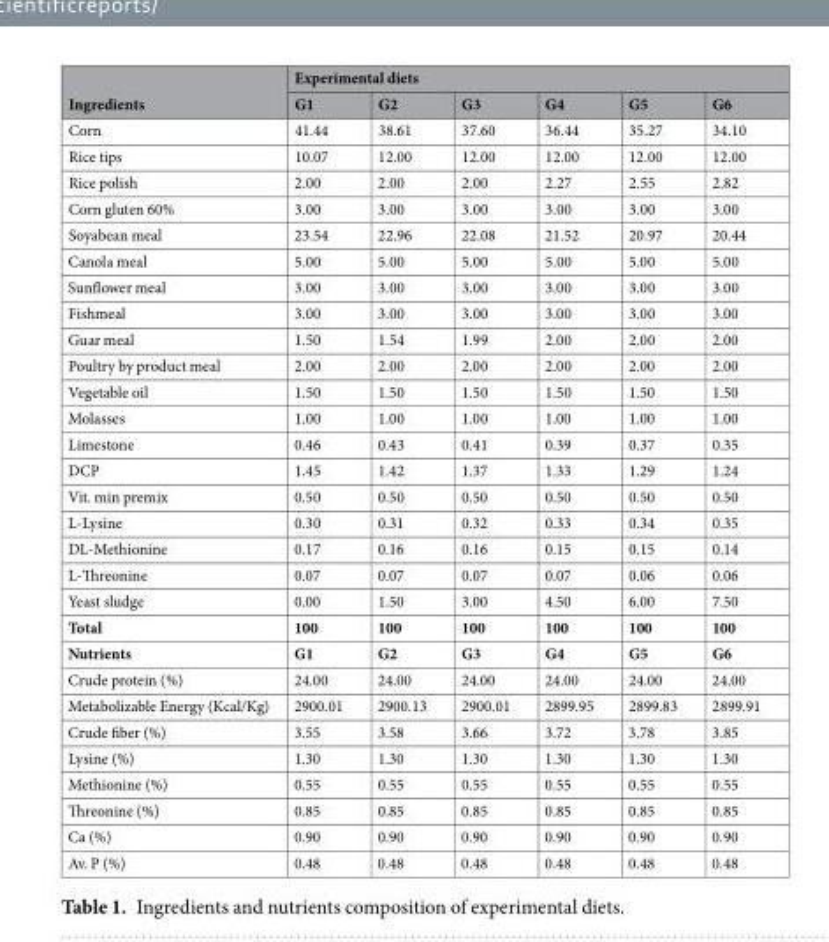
<table><thead><tr><td rowspan="2">Ingredients</td><td colspan="6">Experimental diets</td></tr><tr><td>G1</td><td>G2</td><td>G3</td><td>G4</td><td>G5</td><td>G6</td></tr></thead><tbody><tr><td>Corn</td><td>41.44</td><td>38.61</td><td>37.60</td><td>36.44</td><td>35.27</td><td>34.10</td></tr><tr><td>Rice tips</td><td>10.07</td><td>12.00</td><td>12.00</td><td>12.00</td><td>12.00</td><td>12.00</td></tr><tr><td>Rice polish</td><td>2.00</td><td>2.00</td><td>2.00</td><td>2.27</td><td>2.55</td><td>2.82</td></tr><tr><td>Corn gluten 60%</td><td>3.00</td><td>3.00</td><td>3.00</td><td>3.00</td><td>3.00</td><td>3.00</td></tr><tr><td>Soyabean meal</td><td>23.54</td><td>22.96</td><td>22.08</td><td>21.52</td><td>20.97</td><td>20.44</td></tr><tr><td>Canola meal</td><td>5.00</td><td>5.00</td><td>5.00</td><td>5.00</td><td>5.00</td><td>5.00</td></tr><tr><td>Sunflower meal</td><td>3.00</td><td>3.00</td><td>3.00</td><td>3.00</td><td>3.00</td><td>3.00</td></tr><tr><td>Fishmeal</td><td>3.00</td><td>3.00</td><td>3.00</td><td>3.00</td><td>3.00</td><td>3.00</td></tr><tr><td>Guar meal</td><td>1.50</td><td>1.54</td><td>1.99</td><td>2.00</td><td>2.00</td><td>2.00</td></tr><tr><td>Poultry by product meal</td><td>2.00</td><td>2.00</td><td>2.00</td><td>2.00</td><td>2.00</td><td>2.00</td></tr><tr><td>Vegetable oil</td><td>1.50</td><td>1.50</td><td>1.50</td><td>1.50</td><td>1.50</td><td>1.50</td></tr><tr><td>Molasses</td><td>1.00</td><td>1.00</td><td>1.00</td><td>1.00</td><td>1.00</td><td>1.00</td></tr><tr><td>Limestone</td><td>0.46</td><td>0.43</td><td>0.41</td><td>0.39</td><td>0.37</td><td>0.35</td></tr><tr><td>DCP</td><td>1.45</td><td>1.42</td><td>1.37</td><td>1.33</td><td>1.29</td><td>1.24</td></tr><tr><td>Vit. min premix</td><td>0.50</td><td>0.50</td><td>0.50</td><td>0.50</td><td>0.50</td><td>0.50</td></tr><tr><td>L-Lysine</td><td>0.30</td><td>0.31</td><td>0.32</td><td>0.33</td><td>0.34</td><td>0.35</td></tr><tr><td>DL-Methionine</td><td>0.17</td><td>0.16</td><td>0.16</td><td>0.15</td><td>0.15</td><td>0.14</td></tr><tr><td>L-Threonine</td><td>0.07</td><td>0.07</td><td>0.07</td><td>0.07</td><td>0.06</td><td>0.06</td></tr><tr><td>Yeast sludge</td><td>0.00</td><td>1.50</td><td>3.00</td><td>4.50</td><td>6.00</td><td>7.50</td></tr><tr><td>Total</td><td>100</td><td>100</td><td>100</td><td>100</td><td>100</td><td>100</td></tr><tr><td>Nutrients</td><td>G1</td><td>G2</td><td>G3</td><td>G4</td><td>G5</td><td>G6</td></tr><tr><td>Crude protein (%)</td><td>24.00</td><td>24.00</td><td>24.00</td><td>24.00</td><td>24.00</td><td>24.00</td></tr><tr><td>Metabolizable Energy (Kcal/Kg)</td><td>2900.01</td><td>2900.13</td><td>2900.01</td><td>2899.95</td><td>2899.83</td><td>2899.91</td></tr><tr><td>Crude fiber (%)</td><td>3.55</td><td>3.58</td><td>3.66</td><td>3.72</td><td>3.78</td><td>3.85</td></tr><tr><td>Lysine (%)</td><td>1.30</td><td>1.30</td><td>1.30</td><td>1.30</td><td>1.30</td><td>1.30</td></tr><tr><td>Methionine (%)</td><td>0.55</td><td>0.55</td><td>0.55</td><td>0.55</td><td>0.55</td><td>0.55</td></tr><tr><td>Threonine (%)</td><td>0.85</td><td>0.85</td><td>0.85</td><td>0.85</td><td>0.85</td><td>0.85</td></tr><tr><td>Ca (%)</td><td>0.90</td><td>0.90</td><td>0.90</td><td>0.90</td><td>0.90</td><td>0.90</td></tr><tr><td>Av. P (%)</td><td>0.48</td><td>0.48</td><td>0.48</td><td>0.48</td><td>0.48</td><td>0.48</td></tr></tbody></table>